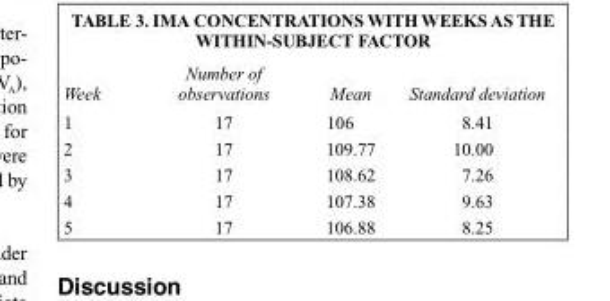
<table><thead><tr><td>Week</td><td>Number of observations</td><td>Mean</td><td>Standard deviation</td></tr></thead><tbody><tr><td>1</td><td>17</td><td>106</td><td>8.41</td></tr><tr><td>2</td><td>17</td><td>109.77</td><td>10.00</td></tr><tr><td>3</td><td>17</td><td>108.62</td><td>7.26</td></tr><tr><td>4</td><td>17</td><td>107.38</td><td>9.63</td></tr><tr><td>5</td><td>17</td><td>106.88</td><td>8.25</td></tr></tbody></table>